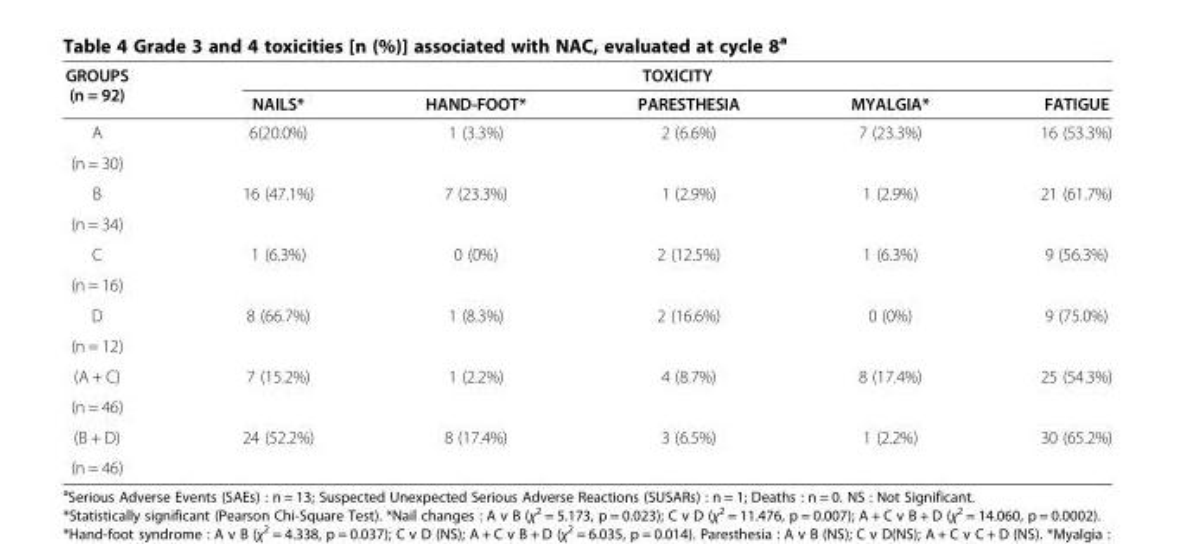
<table><thead><tr><td rowspan="2">GROUPS (n = 92)</td><td colspan="5">TOXICITY</td></tr><tr><td>NAILS*</td><td>HAND-FOOT*</td><td>PARESTHESIA</td><td>MYALGIA*</td><td>FATIGUE</td></tr></thead><tbody><tr><td>A</td><td rowspan="2">6(20.0%)</td><td rowspan="2">1 (3.3%)</td><td rowspan="2">2 (6.6%)</td><td rowspan="2">7 (23.3%)</td><td rowspan="2">16 (53.3%)</td></tr><tr><td>(n = 30)</td></tr><tr><td>B</td><td rowspan="2">16 (47.1%)</td><td rowspan="2">7 (23.3%)</td><td rowspan="2">1 (2.9%)</td><td rowspan="2">1 (2.9%)</td><td rowspan="2">21 (61.7%)</td></tr><tr><td>(n = 34)</td></tr><tr><td>C</td><td rowspan="2">1 (6.3%)</td><td rowspan="2">0 (0%)</td><td rowspan="2">2 (12.5%)</td><td rowspan="2">1 (6.3%)</td><td rowspan="2">9 (56.3%)</td></tr><tr><td>(n = 16)</td></tr><tr><td>D</td><td rowspan="2">8 (66.7%)</td><td rowspan="2">1 (8.3%)</td><td rowspan="2">2 (16.6%)</td><td rowspan="2">0 (0%)</td><td rowspan="2">9 (75.0%)</td></tr><tr><td>(n = 12)</td></tr><tr><td>(A + C)</td><td rowspan="2">7 (15.2%)</td><td rowspan="2">1 (2.2%)</td><td rowspan="2">4 (8.7%)</td><td rowspan="2">8 (17.4%)</td><td rowspan="2">25 (54.3%)</td></tr><tr><td>(n = 46)</td></tr><tr><td>(B + D)</td><td rowspan="2">24 (52.2%)</td><td rowspan="2">8 (17.4%)</td><td rowspan="2">3 (6.5%)</td><td rowspan="2">1 (2.2%)</td><td rowspan="2">30 (65.2%)</td></tr><tr><td>(n = 46)</td></tr></tbody></table>